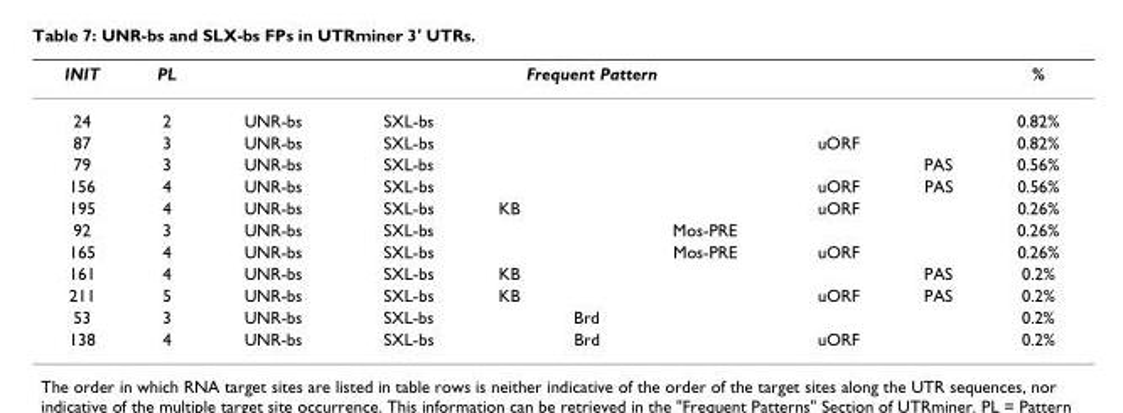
<table><thead><tr><td rowspan="2">INIT 24</td><td rowspan="2">PL 2</td><td colspan="7">Frequent Pattern</td><td rowspan="2">% 0.82%</td></tr><tr><td>UNR-bs</td><td>SXL-bs</td><td></td><td></td><td></td><td></td><td></td></tr></thead><tbody><tr><td>87</td><td>3</td><td>UNR-bs</td><td>SXL-bs</td><td></td><td></td><td></td><td>uORF</td><td></td><td>0.82%</td></tr><tr><td>79</td><td>3</td><td>UNR-bs</td><td>SXL-bs</td><td></td><td></td><td></td><td></td><td>PAS</td><td>0.56%</td></tr><tr><td>156</td><td>4</td><td>UNR-bs</td><td>SXL-bs</td><td></td><td></td><td></td><td>uORF</td><td>PAS</td><td>0.56%</td></tr><tr><td>195</td><td>4</td><td>UNR-bs</td><td>SXL-bs</td><td>KB</td><td></td><td></td><td>uORF</td><td></td><td>0.26%</td></tr><tr><td>92</td><td>3</td><td>UNR-bs</td><td>SXL-bs</td><td></td><td></td><td>Mos-PRE</td><td></td><td></td><td>0.26%</td></tr><tr><td>165</td><td>4</td><td>UNR-bs</td><td>SXL-bs</td><td></td><td></td><td>Mos-PRE</td><td>uORF</td><td></td><td>0.26%</td></tr><tr><td>161</td><td>4</td><td>UNR-bs</td><td>SXL-bs</td><td>KB</td><td></td><td></td><td></td><td>PAS</td><td>0.2%</td></tr><tr><td>211</td><td>5</td><td>UNR-bs</td><td>SXL-bs</td><td>KB</td><td></td><td></td><td>uORF</td><td>PAS</td><td>0.2%</td></tr><tr><td>53</td><td>3</td><td>UNR-bs</td><td>SXL-bs</td><td></td><td>Brd</td><td></td><td></td><td></td><td>0.2%</td></tr><tr><td>138</td><td>4</td><td>UNR-bs</td><td>SXL-bs</td><td></td><td>Brd</td><td></td><td>uORF</td><td></td><td>0.2%</td></tr></tbody></table>